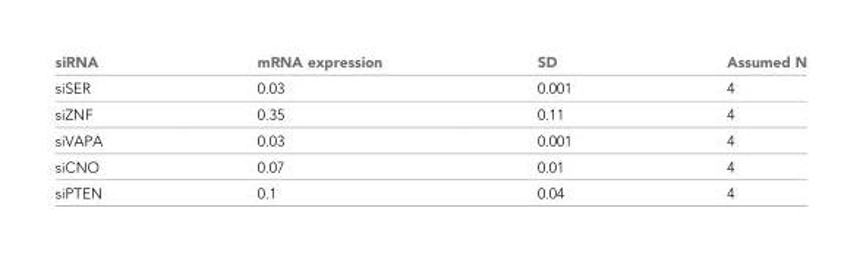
<table><thead><tr><td>siRNA</td><td>mRNA expression</td><td>SD</td><td>Assumed N</td></tr></thead><tbody><tr><td>siSER</td><td>0.03</td><td>0.001</td><td>4</td></tr><tr><td>siZNF</td><td>0.35</td><td>0.11</td><td>4</td></tr><tr><td>siVAPA</td><td>0.03</td><td>0.001</td><td>4</td></tr><tr><td>siCNO</td><td>0.07</td><td>0.01</td><td>4</td></tr><tr><td>siPTEN</td><td>0.1</td><td>0.04</td><td>4</td></tr></tbody></table>